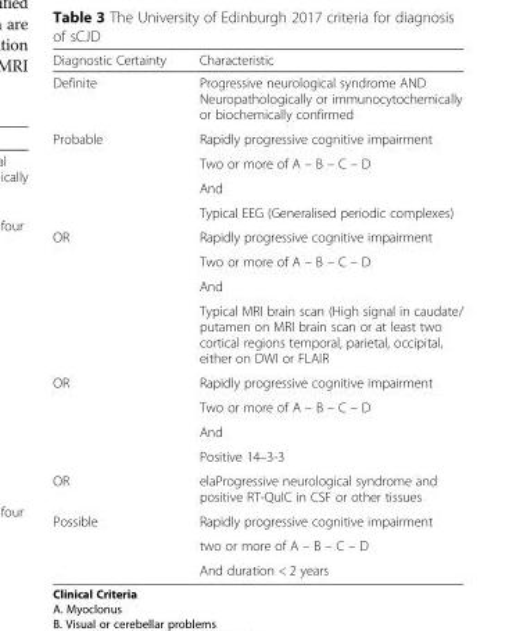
<table><thead><tr><td>Diagnostic Certainty</td><td>Characteristic</td></tr></thead><tbody><tr><td>Definite</td><td>Progressive neurological syndrome AND Neuropathologically or immunocytochemically or biochemically confirmed</td></tr><tr><td rowspan="4">Probable</td><td>Rapidly progressive cognitive impairment</td></tr><tr><td>Two or more of A – B – C – D</td></tr><tr><td>And</td></tr><tr><td>Typical EEG (Generalised periodic complexes)</td></tr><tr><td rowspan="4">OR</td><td>Rapidly progressive cognitive impairment</td></tr><tr><td>Two or more of A – B – C – D</td></tr><tr><td>And</td></tr><tr><td>Typical MRI brain scan (High signal in caudate/ putamen on MRI brain scan or at least two cortical regions temporal, parietal, occipital, either on DWI or FLAIR</td></tr><tr><td rowspan="4">OR</td><td>Rapidly progressive cognitive impairment</td></tr><tr><td>Two or more of A – B – C – D</td></tr><tr><td>And</td></tr><tr><td>Positive 14–3-3</td></tr><tr><td>OR</td><td>elaProgressive neurological syndrome and positive RT-QuIC in CSF or other tissues</td></tr><tr><td rowspan="3">Possible</td><td>Rapidly progressive cognitive impairment</td></tr><tr><td>two or more of A – B – C – D</td></tr><tr><td>And duration &lt; 2 years</td></tr></tbody></table>